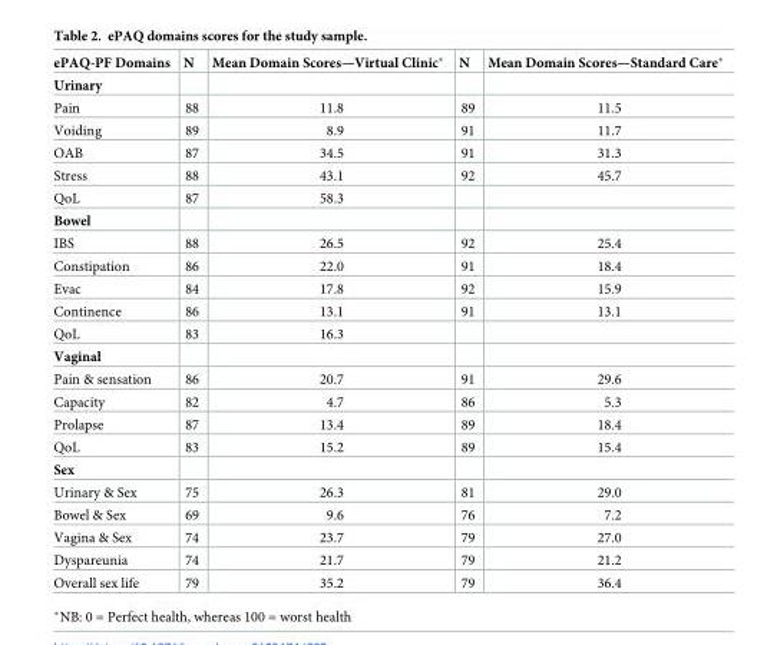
<table><thead><tr><td>ePAQ-PF Domains</td><td>N</td><td>Mean Domain Scores—Virtual Clinic*</td><td>N</td><td>Mean Domain Scores—Standard Care*</td></tr></thead><tbody><tr><td colspan="5">Urinary</td></tr><tr><td>Pain</td><td>88</td><td>11.8</td><td>89</td><td>11.5</td></tr><tr><td>Voiding</td><td>89</td><td>8.9</td><td>91</td><td>11.7</td></tr><tr><td>OAB</td><td>87</td><td>34.5</td><td>91</td><td>31.3</td></tr><tr><td>Stress</td><td>88</td><td>43.1</td><td>92</td><td>45.7</td></tr><tr><td>QoL</td><td>87</td><td>58.3</td><td></td><td></td></tr><tr><td colspan="5">Bowel</td></tr><tr><td>IBS</td><td>88</td><td>26.5</td><td>92</td><td>25.4</td></tr><tr><td>Constipation</td><td>86</td><td>22.0</td><td>91</td><td>18.4</td></tr><tr><td>Evac</td><td>84</td><td>17.8</td><td>92</td><td>15.9</td></tr><tr><td>Continence</td><td>86</td><td>13.1</td><td>91</td><td>13.1</td></tr><tr><td>QoL</td><td>83</td><td>16.3</td><td></td><td></td></tr><tr><td colspan="5">Vaginal</td></tr><tr><td>Pain &amp; sensation</td><td>86</td><td>20.7</td><td>91</td><td>29.6</td></tr><tr><td>Capacity</td><td>82</td><td>4.7</td><td>86</td><td>5.3</td></tr><tr><td>Prolapse</td><td>87</td><td>13.4</td><td>89</td><td>18.4</td></tr><tr><td>QoL</td><td>83</td><td>15.2</td><td>89</td><td>15.4</td></tr><tr><td colspan="5">Sex</td></tr><tr><td>Urinary &amp; Sex</td><td>75</td><td>26.3</td><td>81</td><td>29.0</td></tr><tr><td>Bowel &amp; Sex</td><td>69</td><td>9.6</td><td>76</td><td>7.2</td></tr><tr><td>Vagina &amp; Sex</td><td>74</td><td>23.7</td><td>79</td><td>27.0</td></tr><tr><td>Dyspareunia</td><td>74</td><td>21.7</td><td>79</td><td>21.2</td></tr><tr><td>Overall sex life</td><td>79</td><td>35.2</td><td>79</td><td>36.4</td></tr></tbody></table>